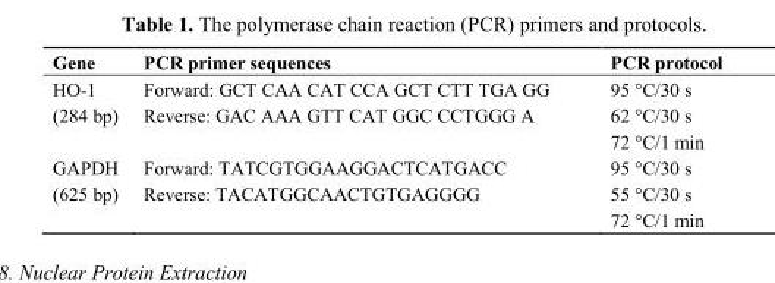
<table><thead><tr><td>Gene</td><td>PCR primer sequences</td><td>PCR protocol</td></tr></thead><tbody><tr><td>HO-1</td><td>Forward: GCT CAA CAT CCA GCT CTT TGA GG</td><td>95 °C/30 s</td></tr><tr><td rowspan="2">(284 bp)</td><td rowspan="2">Reverse: GAC AAA GTT CAT GGC CCTGGG A</td><td>62 °C/30 s</td></tr><tr><td>72 °C/1 min</td></tr><tr><td>GAPDH</td><td>Forward: TATCGTGGAAGGACTCATGACC</td><td>95 °C/30 s</td></tr><tr><td rowspan="2">(625 bp)</td><td rowspan="2">Reverse: TACATGGCAACTGTGAGGGG</td><td>55 °C/30 s</td></tr><tr><td>72 °C/1 min</td></tr></tbody></table>